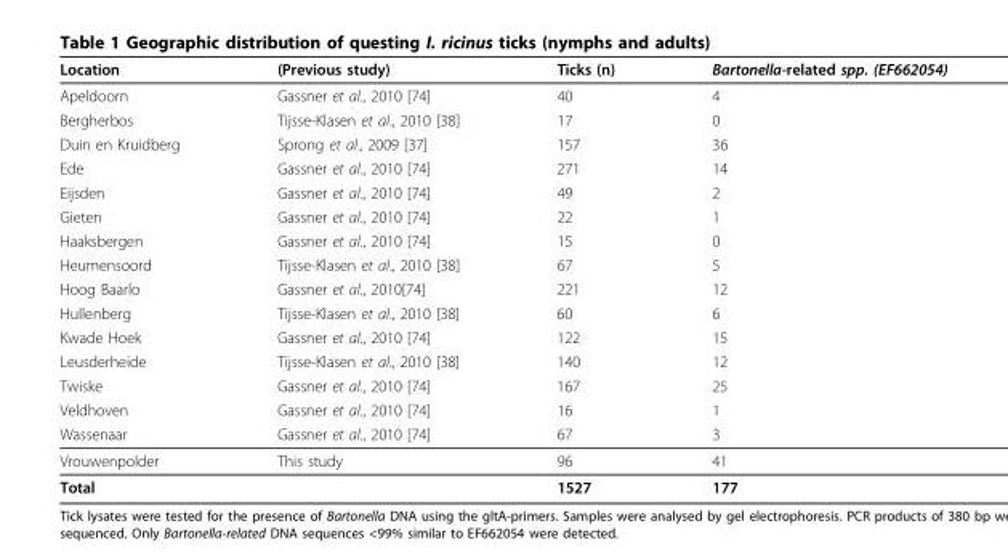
<table><thead><tr><td>Location</td><td>(Previous study)</td><td>Ticks (n)</td><td>Bartonella-related spp. (EF662054)</td></tr></thead><tbody><tr><td>Apeldoorn</td><td>Gassner et al., 2010 [74]</td><td>40</td><td>4</td></tr><tr><td>Bergherbos</td><td>Tijsse-Klasen et al., 2010 [38]</td><td>17</td><td>0</td></tr><tr><td>Duin en Kruidberg</td><td>Sprong et al., 2009 [37]</td><td>157</td><td>36</td></tr><tr><td>Ede</td><td>Gassner et al., 2010 [74]</td><td>271</td><td>14</td></tr><tr><td>Eijsden</td><td>Gassner et al., 2010 [74]</td><td>49</td><td>2</td></tr><tr><td>Gieten</td><td>Gassner et al., 2010 [74]</td><td>22</td><td>1</td></tr><tr><td>Haaksbergen</td><td>Gassner et al., 2010 [74]</td><td>15</td><td>0</td></tr><tr><td>Heumensoord</td><td>Tijsse-Klasen et al., 2010 [38]</td><td>67</td><td>5</td></tr><tr><td>Hoog Baarlo</td><td>Gassner et al., 2010[74]</td><td>221</td><td>12</td></tr><tr><td>Hullenberg</td><td>Tijsse-Klasen et al., 2010 [38]</td><td>60</td><td>6</td></tr><tr><td>Kwade Hoek</td><td>Gassner et al., 2010 [74]</td><td>122</td><td>15</td></tr><tr><td>Leusderheide</td><td>Tijsse-Klasen et al., 2010 [38]</td><td>140</td><td>12</td></tr><tr><td>Twiske</td><td>Gassner et al., 2010 [74]</td><td>167</td><td>25</td></tr><tr><td>Veldhoven</td><td>Gassner et al., 2010 [74]</td><td>16</td><td>1</td></tr><tr><td>Wassenaar</td><td>Gassner et al., 2010 [74]</td><td>67</td><td>3</td></tr><tr><td>Vrouwenpolder</td><td>This study</td><td>96</td><td>41</td></tr><tr><td>Total</td><td></td><td>1527</td><td>177</td></tr></tbody></table>